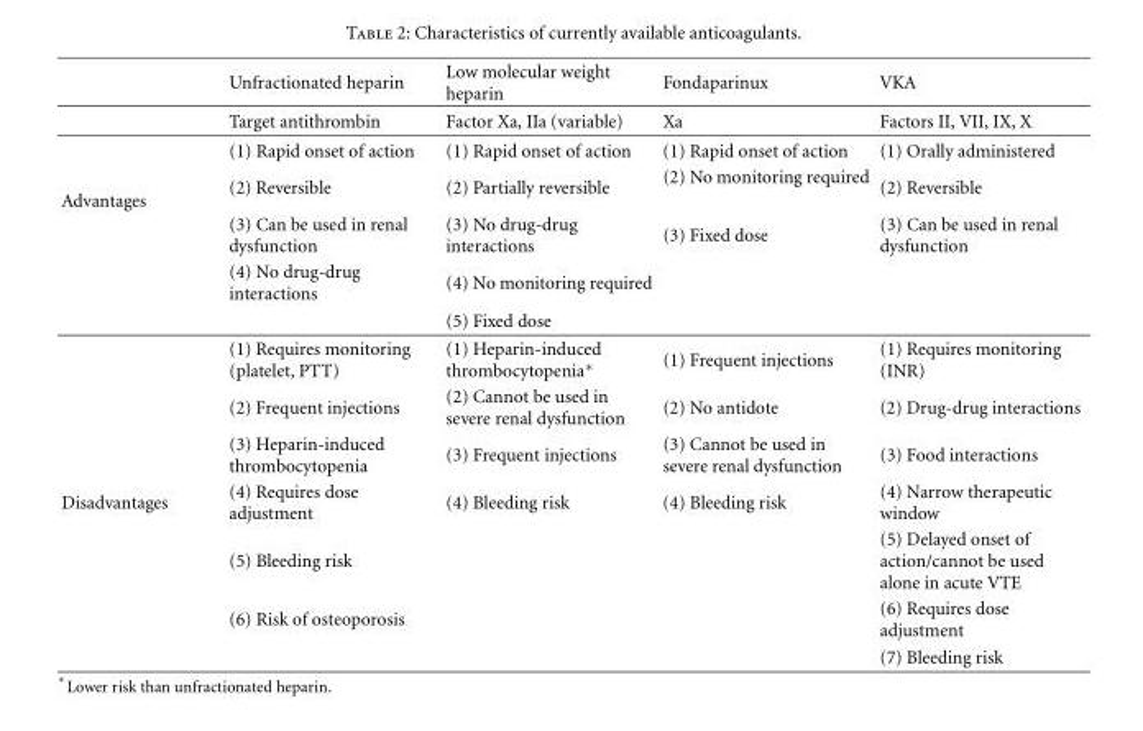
<table><thead><tr><td></td><td>Unfractionated heparin</td><td>Low molecular weight heparin</td><td>Fondaparinux</td><td>VKA</td></tr></thead><tbody><tr><td></td><td>Target antithrombin</td><td>Factor Xa, IIa (variable)</td><td>Xa</td><td>Factors II, VII, IX, X</td></tr><tr><td rowspan="8">Advantages</td><td>(1) Rapid onset of action</td><td>(1) Rapid onset of action</td><td>(1) Rapid onset of action</td><td>(1) Orally administered</td></tr><tr><td>(2) Reversible</td><td>(2) Partially reversible</td><td>(2) No monitoring required</td><td>(2) Reversible</td></tr><tr><td>(3) Can be used in renal dysfunction</td><td>(3) No drug-drug interactions</td><td>(3) Fixed dose</td><td>(3) Can be used in renal dysfunction</td></tr><tr><td>(4) No drug-drug interactions</td><td>(4) No monitoring required</td><td></td><td></td></tr><tr><td></td><td>(5) Fixed dose</td><td></td><td></td></tr><tr><td>(1) Requires monitoring (platelet, PTT)</td><td>(1) Heparin-induced thrombocytopenia∗</td><td>(1) Frequent injections</td><td>(1) Requires monitoring (INR)</td></tr><tr><td>(2) Frequent injections</td><td>(2) Cannot be used in severe renal dysfunction</td><td>(2) No antidote</td><td>(2) Drug-drug interactions</td></tr><tr><td>(3) Heparin-induced thrombocytopenia</td><td>(3) Frequent injections</td><td>(3) Cannot be used in severe renal dysfunction</td><td>(3) Food interactions</td></tr><tr><td rowspan="4">Disadvantages</td><td>(4) Requires dose adjustment</td><td>(4) Bleeding risk</td><td>(4) Bleeding risk</td><td>(4) Narrow therapeutic window</td></tr><tr><td>(5) Bleeding risk</td><td></td><td></td><td>(5) Delayed onset of action/cannot be used alone in acute VTE</td></tr><tr><td>(6) Risk of osteoporosis</td><td></td><td></td><td>(6) Requires dose adjustment</td></tr><tr><td></td><td></td><td></td><td>(7) Bleeding risk</td></tr></tbody></table>